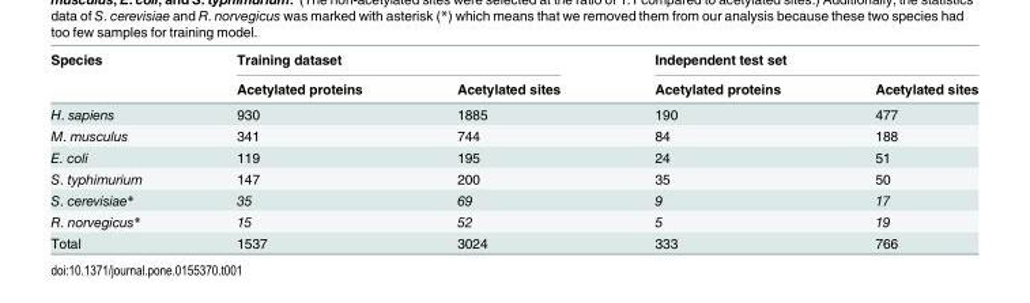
<table><thead><tr><td rowspan="2">Species</td><td colspan="2">Training dataset</td><td colspan="2">Independent test set</td></tr><tr><td>Acetylated proteins</td><td>Acetylated sites</td><td>Acetylated proteins</td><td>Acetylated sites</td></tr></thead><tbody><tr><td>H. sapiens</td><td>930</td><td>1885</td><td>190</td><td>477</td></tr><tr><td>M. musculus</td><td>341</td><td>744</td><td>84</td><td>188</td></tr><tr><td>E. coli</td><td>119</td><td>195</td><td>24</td><td>51</td></tr><tr><td>S. typhimurium</td><td>147</td><td>200</td><td>35</td><td>50</td></tr><tr><td>S. cerevisiae*</td><td>35</td><td>69</td><td>9</td><td>17</td></tr><tr><td>R. norvegicus*</td><td>15</td><td>52</td><td>5</td><td>19</td></tr><tr><td>Total</td><td>1537</td><td>3024</td><td>333</td><td>766</td></tr></tbody></table>